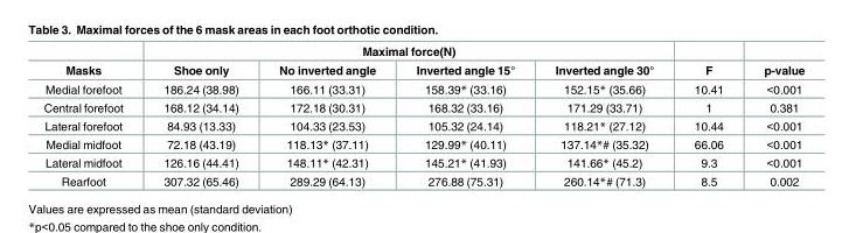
<table><thead><tr><td rowspan="2">Masks</td><td colspan="4">Maximal force(N)</td><td rowspan="2">F</td><td rowspan="2">p-value</td></tr><tr><td>Shoe only</td><td>No inverted angle</td><td>Inverted angle 15°</td><td>Inverted angle 30°</td></tr></thead><tbody><tr><td>Medial forefoot</td><td>186.24 (38.98)</td><td>166.11 (33.31)</td><td>158.39* (33.16)</td><td>152.15* (35.66)</td><td>10.41</td><td>&lt;0.001</td></tr><tr><td>Central forefoot</td><td>168.12 (34.14)</td><td>172.18 (30.31)</td><td>168.32 (33.16)</td><td>171.29 (33.71)</td><td>1</td><td>0.381</td></tr><tr><td>Lateral forefoot</td><td>84.93 (13.33)</td><td>104.33 (23.53)</td><td>105.32 (24.14)</td><td>118.21* (27.12)</td><td>10.44</td><td>&lt;0.001</td></tr><tr><td>Medial midfoot</td><td>72.18 (43.19)</td><td>118.13* (37.11)</td><td>129.99* (40.11)</td><td>137.14*# (35.32)</td><td>66.06</td><td>&lt;0.001</td></tr><tr><td>Lateral midfoot</td><td>126.16 (44.41)</td><td>148.11* (42.31)</td><td>145.21* (41.93)</td><td>141.66* (45.2)</td><td>9.3</td><td>&lt;0.001</td></tr><tr><td>Rearfoot</td><td>307.32 (65.46)</td><td>289.29 (64.13)</td><td>276.88 (75.31)</td><td>260.14*# (71.3)</td><td>8.5</td><td>0.002</td></tr></tbody></table>